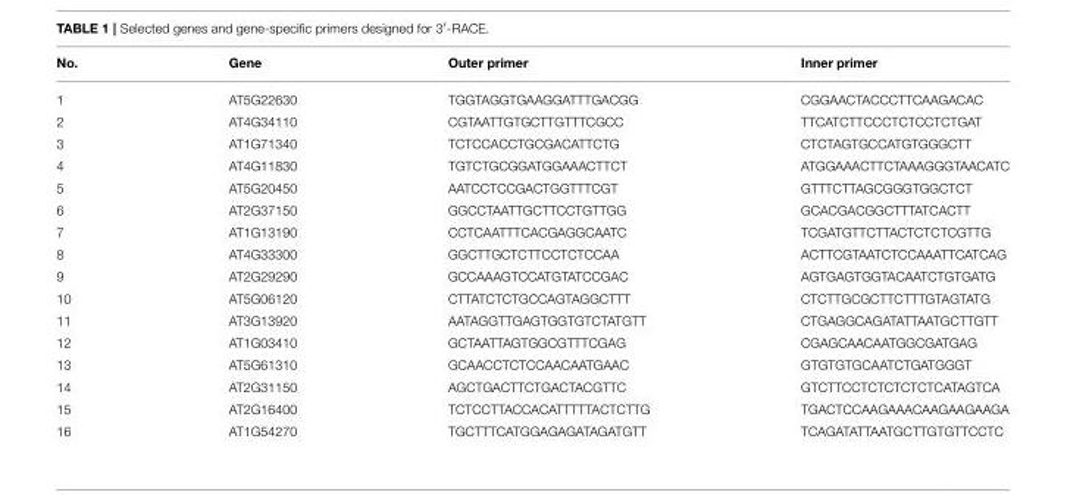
<table><thead><tr><td>No.</td><td>Gene</td><td>Outer primer</td><td>Inner primer</td></tr></thead><tbody><tr><td>1</td><td>AT5G22630</td><td>TGGTAGGTGAAGGATTTGACGG</td><td>CGGAACTACCCTTCAAGACAC</td></tr><tr><td>2</td><td>AT4G34110</td><td>CGTAATTGTGCTTGTTTCGCC</td><td>TTCATCTTCCCTCTCCTCTGAT</td></tr><tr><td>3</td><td>AT1G71340</td><td>TCTCCACCTGCGACATTCTG</td><td>CTCTAGTGCCATGTGGGCTT</td></tr><tr><td>4</td><td>AT4G11830</td><td>TGTCTGCGGATGGAAACTTCT</td><td>ATGGAAACTTCTAAAGGGTAACATC</td></tr><tr><td>5</td><td>AT5G20450</td><td>AATCCTCCGACTGGTTTCGT</td><td>GTTTCTTAGCGGGTGGCTCT</td></tr><tr><td>6</td><td>AT2G37150</td><td>GGCCTAATTGCTTCCTGTTGG</td><td>GCACGACGGCTTTATCACTT</td></tr><tr><td>7</td><td>AT1G13190</td><td>CCTCAATTTCACGAGGCAATC</td><td>TCGATGTTCTTACTCTCTCGTTG</td></tr><tr><td>8</td><td>AT4G33300</td><td>GGCTTGCTCTTCCTCTCCAA</td><td>ACTTCGTAATCTCCAAATTCATCAG</td></tr><tr><td>9</td><td>AT2G29290</td><td>GCCAAAGTCCATGTATCCGAC</td><td>AGTGAGTGGTACAATCTGTGATG</td></tr><tr><td>10</td><td>AT5G06120</td><td>CTTATCTCTGCCAGTAGGCTTT</td><td>CTCTTGCGCTTCTTTGTAGTATG</td></tr><tr><td>11</td><td>AT3G13920</td><td>AATAGGTTGAGTGGTGTCTATGTT</td><td>CTGAGGCAGATATTAATGCTTGTT</td></tr><tr><td>12</td><td>AT1G03410</td><td>GCTAATTAGTGGCGTTTCGAG</td><td>CGAGCAACAATGGCGATGAG</td></tr><tr><td>13</td><td>AT5G61310</td><td>GCAACCTCTCCAACAATGAAC</td><td>GTGTGTGCAATCTGATGGGT</td></tr><tr><td>14</td><td>AT2G31150</td><td>AGCTGACTTCTGACTACGTTC</td><td>GTCTTCCTCTCTCTCTCATAGTCA</td></tr><tr><td>15</td><td>AT2G16400</td><td>TCTCCTTACCACATTTTTACTCTTG</td><td>TGACTCCAAGAAACAAGAAGAAGA</td></tr><tr><td>16</td><td>AT1G54270</td><td>TGCTTTCATGGAGAGATAGATGTT</td><td>TCAGATATTAATGCTTGTGTTCCTC</td></tr></tbody></table>